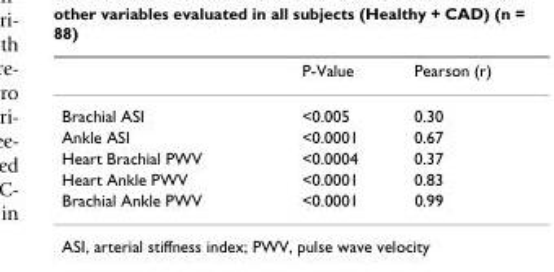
<table><thead><tr><td></td><td>P-Value</td><td>Pearson (r)</td></tr></thead><tbody><tr><td>Brachial ASI</td><td>&lt;0.005</td><td>0.30</td></tr><tr><td>Ankle ASI</td><td>&lt;0.0001</td><td>0.67</td></tr><tr><td>Heart Brachial PWV</td><td>&lt;0.0004</td><td>0.37</td></tr><tr><td>Heart Ankle PWV</td><td>&lt;0.0001</td><td>0.83</td></tr><tr><td>Brachial Ankle PWV</td><td>&lt;0.0001</td><td>0.99</td></tr></tbody></table>